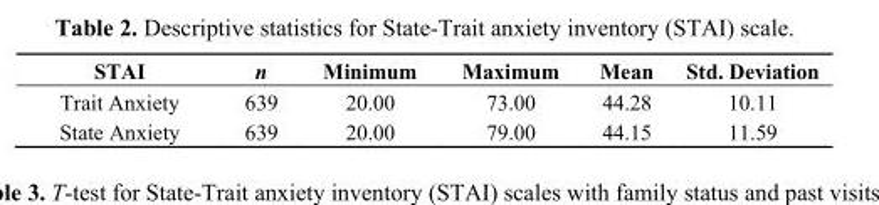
<table><thead><tr><td>STAI</td><td>n</td><td>Minimum</td><td>Maximum</td><td>Mean</td><td>Std. Deviation</td></tr></thead><tbody><tr><td>Trait Anxiety</td><td>639</td><td>20.00</td><td>73.00</td><td>44.28</td><td>10.11</td></tr><tr><td>State Anxiety</td><td>639</td><td>20.00</td><td>79.00</td><td>44.15</td><td>11.59</td></tr></tbody></table>